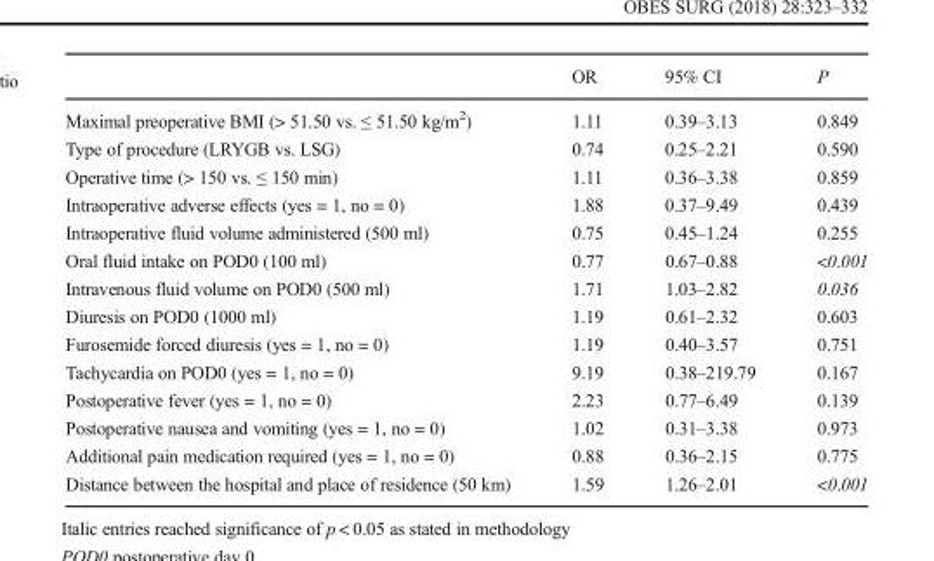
<table><thead><tr><td></td><td>OR</td><td>95% CI</td><td>P</td></tr></thead><tbody><tr><td>Maximal preoperative BMI (&gt; 51.50 vs. ≤ 51.50 kg/m<sup>2</sup>)</td><td>1.11</td><td>0.39–3.13</td><td>0.849</td></tr><tr><td>Type of procedure (LRYGB vs. LSG)</td><td>0.74</td><td>0.25–2.21</td><td>0.590</td></tr><tr><td>Operative time (&gt; 150 vs. ≤ 150 min)</td><td>1.11</td><td>0.36–3.38</td><td>0.859</td></tr><tr><td>Intraoperative adverse effects (yes = 1, no = 0)</td><td>1.88</td><td>0.37–9.49</td><td>0.439</td></tr><tr><td>Intraoperative fluid volume administered (500 ml)</td><td>0.75</td><td>0.45–1.24</td><td>0.255</td></tr><tr><td>Oral fluid intake on POD0 (100 ml)</td><td>0.77</td><td>0.67–0.88</td><td>&lt;0.001</td></tr><tr><td>Intravenous fluid volume on POD0 (500 ml)</td><td>1.71</td><td>1.03–2.82</td><td>0.036</td></tr><tr><td>Diuresis on POD0 (1000 ml)</td><td>1.19</td><td>0.61–2.32</td><td>0.603</td></tr><tr><td>Furosemide forced diuresis (yes = 1, no = 0)</td><td>1.19</td><td>0.40–3.57</td><td>0.751</td></tr><tr><td>Tachycardia on POD0 (yes = 1, no = 0)</td><td>9.19</td><td>0.38–219.79</td><td>0.167</td></tr><tr><td>Postoperative fever (yes = 1, no = 0)</td><td>2.23</td><td>0.77–6.49</td><td>0.139</td></tr><tr><td>Postoperative nausea and vomiting (yes = 1, no = 0)</td><td>1.02</td><td>0.31–3.38</td><td>0.973</td></tr><tr><td>Additional pain medication required (yes = 1, no = 0)</td><td>0.88</td><td>0.36–2.15</td><td>0.775</td></tr><tr><td>Distance between the hospital and place of residence (50 km)</td><td>1.59</td><td>1.26–2.01</td><td>&lt;0.001</td></tr></tbody></table>